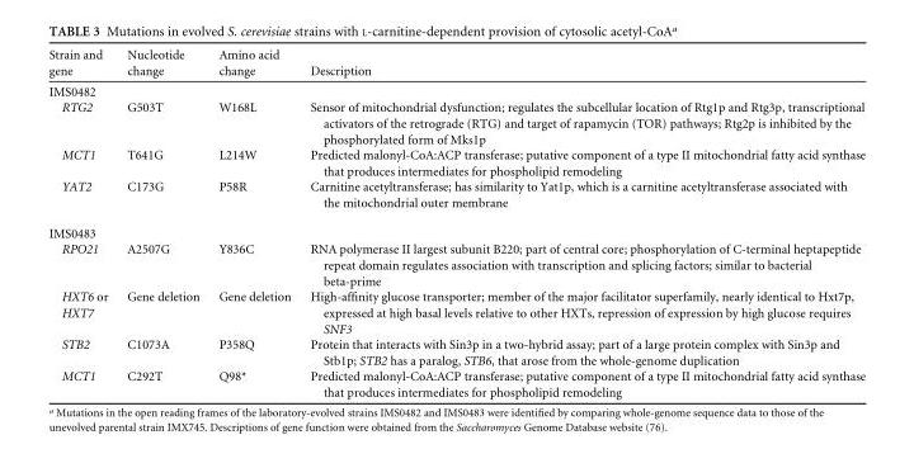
<table><thead><tr><td>Strain and gene</td><td>Nucleotide change</td><td>Amino acid change</td><td>Description</td></tr></thead><tbody><tr><td colspan="4">IMS0482</td></tr><tr><td>RTG2</td><td>G503T</td><td>W168L</td><td>Sensor of mitochondrial dysfunction; regulates the subcellular location of Rtg1p and Rtg3p, transcriptional activators of the retrograde (RTG) and target of rapamycin (TOR) pathways; Rtg2p is inhibited by the phosphorylated form of Mks1p</td></tr><tr><td>MCT1</td><td>T641G</td><td>L214W</td><td>Predicted malonyl-CoA:ACP transferase; putative component of a type II mitochondrial fatty acid synthase that produces intermediates for phospholipid remodeling</td></tr><tr><td>YAT2</td><td>C173G</td><td>P58R</td><td>Carnitine acetyltransferase; has similarity to Yat1p, which is a carnitine acetyltransferase associated with the mitochondrial outer membrane</td></tr><tr><td colspan="4">IMS0483</td></tr><tr><td>RPO21</td><td>A2507G</td><td>Y836C</td><td>RNA polymerase II largest subunit B220; part of central core; phosphorylation of C-terminal heptapeptide repeat domain regulates association with transcription and splicing factors; similar to bacterial beta-prime</td></tr><tr><td>HXT6 or HXT7</td><td>Gene deletion</td><td>Gene deletion</td><td>High-affinity glucose transporter; member of the major facilitator superfamily, nearly identical to Hxt7p, expressed at high basal levels relative to other HXTs, repression of expression by high glucose requires SNF3</td></tr><tr><td>STB2</td><td>C1073A</td><td>P358Q</td><td>Protein that interacts with Sin3p in a two-hybrid assay; part of a large protein complex with Sin3p and Stb1p; STB2 has a paralog, STB6, that arose from the whole-genome duplication</td></tr><tr><td>MCT1</td><td>C292T</td><td>Q98*</td><td>Predicted malonyl-CoA:ACP transferase; putative component of a type II mitochondrial fatty acid synthase that produces intermediates for phospholipid remodeling</td></tr></tbody></table>